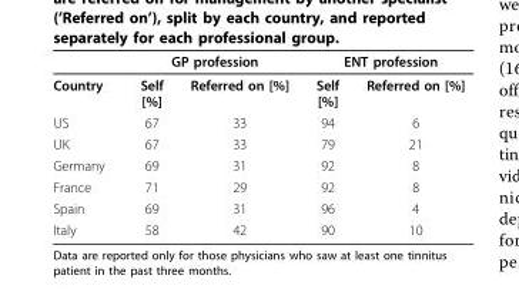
<table><thead><tr><td rowspan="2">Country</td><td colspan="2">GP profession</td><td colspan="2">ENT profession</td></tr><tr><td>Self [%]</td><td>Referred on [%]</td><td>Self [%]</td><td>Referred on [%]</td></tr></thead><tbody><tr><td>US</td><td>67</td><td>33</td><td>94</td><td>6</td></tr><tr><td>UK</td><td>67</td><td>33</td><td>79</td><td>21</td></tr><tr><td>Germany</td><td>69</td><td>31</td><td>92</td><td>8</td></tr><tr><td>France</td><td>71</td><td>29</td><td>92</td><td>8</td></tr><tr><td>Spain</td><td>69</td><td>31</td><td>96</td><td>4</td></tr><tr><td>Italy</td><td>58</td><td>42</td><td>90</td><td>10</td></tr></tbody></table>